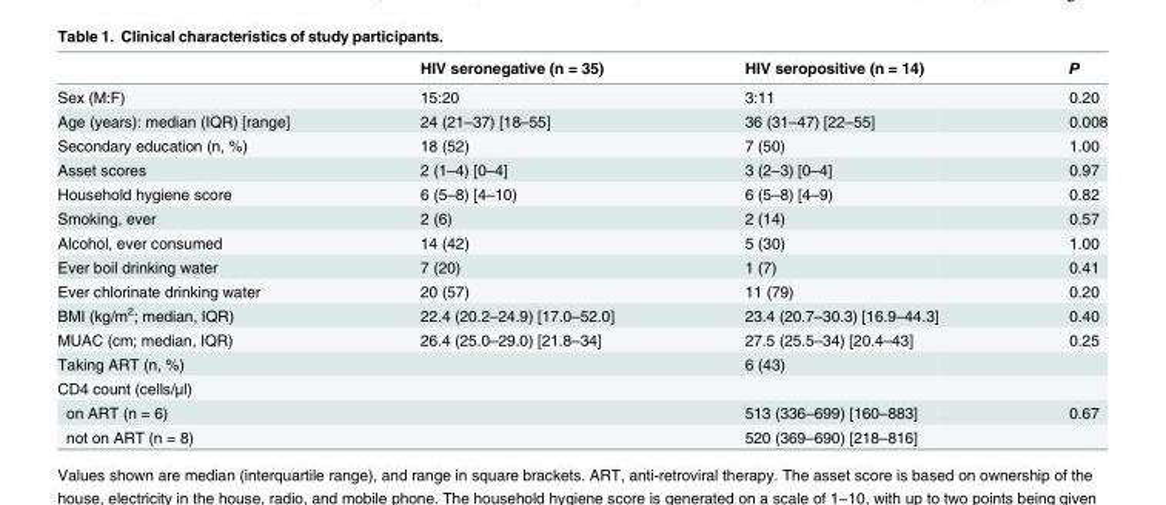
<table><thead><tr><td></td><td>HIV seronegative (n = 35)</td><td>HIV seropositive (n = 14)</td><td>P</td></tr></thead><tbody><tr><td>Sex (M:F)</td><td>15:20</td><td>3:11</td><td>0.20</td></tr><tr><td>Age (years): median (IQR) [range]</td><td>24 (21–37) [18–55]</td><td>36 (31–47) [22–55]</td><td>0.008</td></tr><tr><td>Secondary education (n, %)</td><td>18 (52)</td><td>7 (50)</td><td>1.00</td></tr><tr><td>Asset scores</td><td>2 (1–4) [0–4]</td><td>3 (2–3) [0–4]</td><td>0.97</td></tr><tr><td>Household hygiene score</td><td>6 (5–8) [4–10)</td><td>6 (5–8) [4–9)</td><td>0.82</td></tr><tr><td>Smoking, ever</td><td>2 (6)</td><td>2 (14)</td><td>0.57</td></tr><tr><td>Alcohol, ever consumed</td><td>14 (42)</td><td>5 (30)</td><td>1.00</td></tr><tr><td>Ever boil drinking water</td><td>7 (20)</td><td>1 (7)</td><td>0.41</td></tr><tr><td>Ever chlorinate drinking water</td><td>20 (57)</td><td>11 (79)</td><td>0.20</td></tr><tr><td>BMI (kg/m<sup>2</sup>; median, IQR)</td><td>22.4 (20.2–24.9) [17.0–52.0]</td><td>23.4 (20.7–30.3) [16.9–44.3]</td><td>0.40</td></tr><tr><td>MUAC (cm; median, IQR)</td><td>26.4 (25.0–29.0) [21.8–34]</td><td>27.5 (25.5–34) [20.4–43]</td><td>0.25</td></tr><tr><td>Taking ART (n, %)</td><td></td><td>6 (43)</td><td></td></tr><tr><td colspan="4">CD4 count (cells/μl)</td></tr><tr><td>on ART (n = 6)</td><td></td><td>513 (336–699) [160–883]</td><td>0.67</td></tr><tr><td>not on ART (n = 8)</td><td></td><td>520 (369–690) [218–816]</td><td></td></tr></tbody></table>